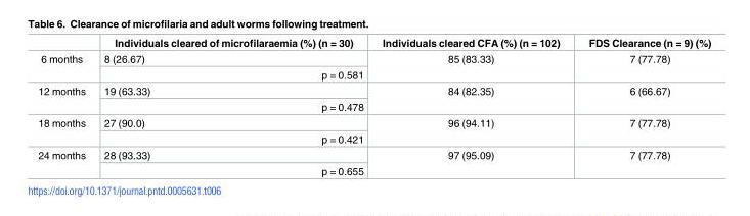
<table><thead><tr><td></td><td>Individuals cleared of microfilaraemia (%) (n = 30)</td><td>Individuals cleared CFA (%) (n = 102)</td><td>FDS Clearance (n = 9) (%)</td></tr></thead><tbody><tr><td rowspan="2">6 months</td><td>8 (26.67)</td><td rowspan="2">85 (83.33)</td><td rowspan="2">7 (77.78)</td></tr><tr><td>p = 0.581</td></tr><tr><td rowspan="2">12 months</td><td>19 (63.33)</td><td rowspan="2">84 (82.35)</td><td rowspan="2">6 (66.67)</td></tr><tr><td>p = 0.478</td></tr><tr><td rowspan="2">18 months</td><td>27 (90.0)</td><td rowspan="2">96 (94.11)</td><td rowspan="2">7 (77.78)</td></tr><tr><td>p = 0.421</td></tr><tr><td rowspan="2">24 months</td><td>28 (93.33)</td><td rowspan="2">97 (95.09)</td><td rowspan="2">7 (77.78)</td></tr><tr><td>p = 0.655</td></tr></tbody></table>